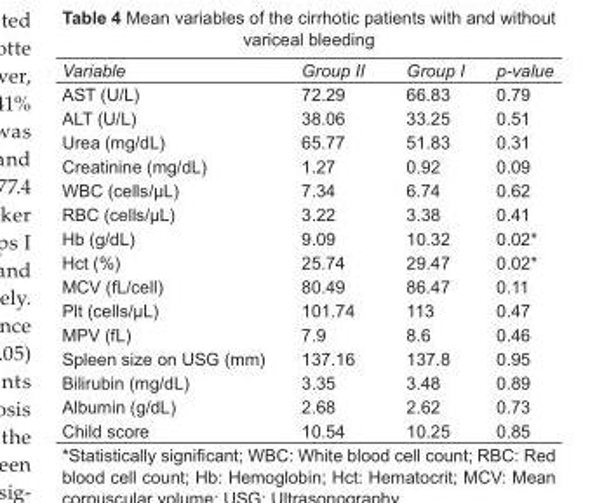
<table><tbody><tr><td>Variable</td><td>Group II</td><td>Group I</td><td>p-value</td></tr><tr><td>AST (U/L)</td><td>72.29</td><td>66.83</td><td>0.79</td></tr><tr><td>ALT (U/L)</td><td>38.06</td><td>33.25</td><td>0.51</td></tr><tr><td>Urea (mg/dL)</td><td>65.77</td><td>51.83</td><td>0.31</td></tr><tr><td>Creatinine (mg/dL)</td><td>1.27</td><td>0.92</td><td>0.09</td></tr><tr><td>WBC (cells/µL)</td><td>7.34</td><td>6.74</td><td>0.62</td></tr><tr><td>RBC (cells/µL)</td><td>3.22</td><td>3.38</td><td>0.41</td></tr><tr><td>Hb (g/dL)</td><td>9.09</td><td>10.32</td><td>0.02*</td></tr><tr><td>Hct (%)</td><td>25.74</td><td>29.47</td><td>0.02*</td></tr><tr><td>MCV (fL/cell)</td><td>80.49</td><td>86.47</td><td>0.11</td></tr><tr><td>Plt (cells/µL)</td><td>101.74</td><td>113</td><td>0.47</td></tr><tr><td>MPV (fL)</td><td>7.9</td><td>8.6</td><td>0.46</td></tr><tr><td>Spleen size on USG (mm)</td><td>137.16</td><td>137.8</td><td>0.95</td></tr><tr><td>Bilirubin (mg/dL)</td><td>3.35</td><td>3.48</td><td>0.89</td></tr><tr><td>Albumin (g/dL)</td><td>2.68</td><td>2.62</td><td>0.73</td></tr><tr><td>Child score</td><td>10.54</td><td>10.25</td><td>0.85</td></tr></tbody></table>